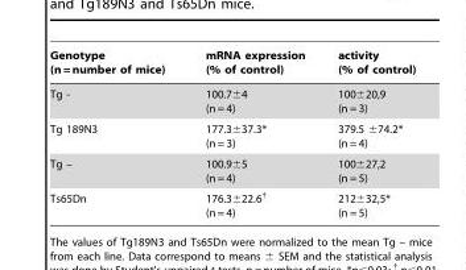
<table><thead><tr><td>Genotype (n = number of mice)</td><td>mRNA expression (% of control)</td><td>activity (% of control)</td></tr></thead><tbody><tr><td>Tg -</td><td>100.7±4 (n = 4)</td><td>100±20,9 (n = 3)</td></tr><tr><td>Tg 189N3</td><td>177.3±37.3* (n = 3)</td><td>379.5 ±74.2* (n = 4)</td></tr><tr><td>Tg –</td><td>100.9±5 (n = 4)</td><td>100±27,2 (n = 5)</td></tr><tr><td>Ts65Dn</td><td>176.3±22.6<sup>†</sup> (n = 4)</td><td>212±32,5* (n = 5)</td></tr></tbody></table>